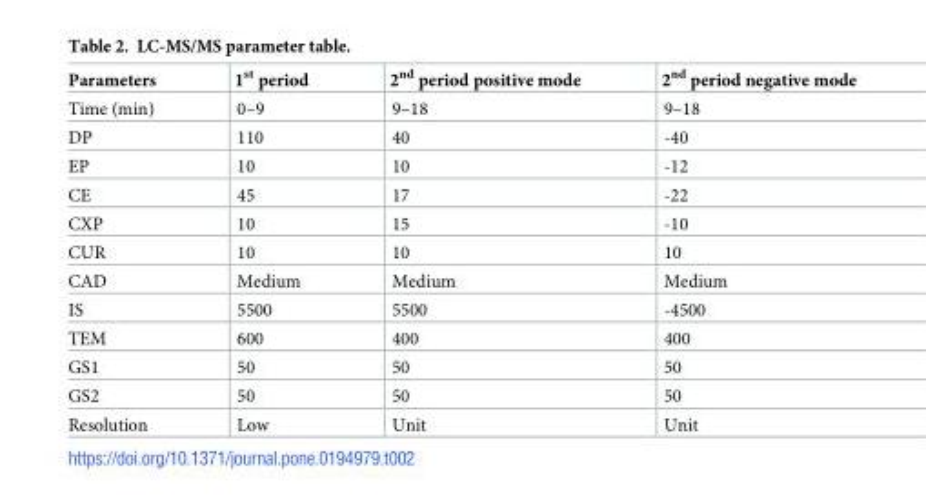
<table><thead><tr><td>Parameters</td><td>1<sup>st</sup> period</td><td>2<sup>nd</sup> period positive mode</td><td>2<sup>nd</sup> period negative mode</td></tr></thead><tbody><tr><td>Time (min)</td><td>0–9</td><td>9–18</td><td>9–18</td></tr><tr><td>DP</td><td>110</td><td>40</td><td>-40</td></tr><tr><td>EP</td><td>10</td><td>10</td><td>-12</td></tr><tr><td>CE</td><td>45</td><td>17</td><td>-22</td></tr><tr><td>CXP</td><td>10</td><td>15</td><td>-10</td></tr><tr><td>CUR</td><td>10</td><td>10</td><td>10</td></tr><tr><td>CAD</td><td>Medium</td><td>Medium</td><td>Medium</td></tr><tr><td>IS</td><td>5500</td><td>5500</td><td>-4500</td></tr><tr><td>TEM</td><td>600</td><td>400</td><td>400</td></tr><tr><td>GS1</td><td>50</td><td>50</td><td>50</td></tr><tr><td>GS2</td><td>50</td><td>50</td><td>50</td></tr><tr><td>Resolution</td><td>Low</td><td>Unit</td><td>Unit</td></tr></tbody></table>